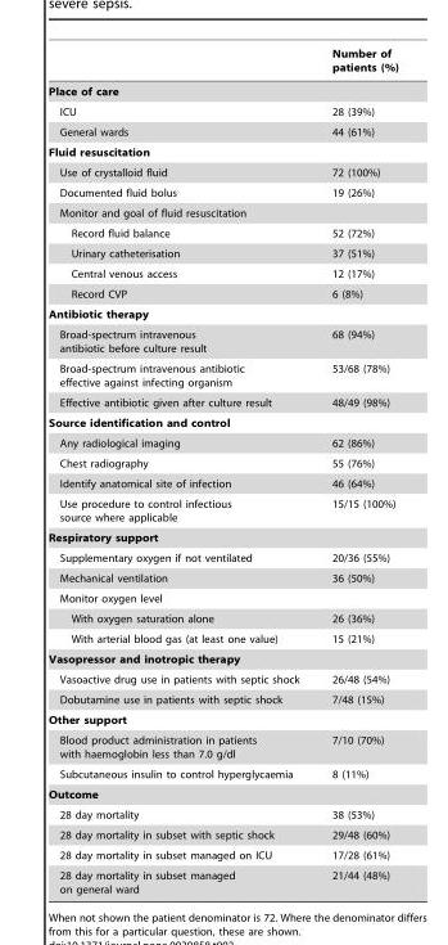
<table><thead><tr><td></td><td>Number of patients (%)</td></tr></thead><tbody><tr><td colspan="2">Place of care</td></tr><tr><td>ICU</td><td>28 (39%)</td></tr><tr><td>General wards</td><td>44 (61%)</td></tr><tr><td colspan="2">Fluid resuscitation</td></tr><tr><td>Use of crystalloid fluid</td><td>72 (100%)</td></tr><tr><td>Documented fluid bolus</td><td>19 (26%)</td></tr><tr><td colspan="2">Monitor and goal of fluid resuscitation</td></tr><tr><td>Record fluid balance</td><td>52 (72%)</td></tr><tr><td>Urinary catheterisation</td><td>37 (51%)</td></tr><tr><td>Central venous access</td><td>12 (17%)</td></tr><tr><td>Record CVP</td><td>6 (8%)</td></tr><tr><td colspan="2">Antibiotic therapy</td></tr><tr><td>Broad-spectrum intravenous antibiotic before culture result</td><td>68 (94%)</td></tr><tr><td>Broad-spectrum intravenous antibiotic effective against infecting organism</td><td>53/68 (78%)</td></tr><tr><td>Effective antibiotic given after culture result</td><td>48/49 (98%)</td></tr><tr><td colspan="2">Source identification and control</td></tr><tr><td>Any radiological imaging</td><td>62 (86%)</td></tr><tr><td>Chest radiography</td><td>55 (76%)</td></tr><tr><td>Identify anatomical site of infection</td><td>46 (64%)</td></tr><tr><td>Use procedure to control infectious source where applicable</td><td>15/15 (100%)</td></tr><tr><td colspan="2">Respiratory support</td></tr><tr><td>Supplementary oxygen if not ventilated</td><td>20/36 (55%)</td></tr><tr><td>Mechanical ventilation</td><td>36 (50%)</td></tr><tr><td colspan="2">Monitor oxygen level</td></tr><tr><td>With oxygen saturation alone</td><td>26 (36%)</td></tr><tr><td>With arterial blood gas (at least one value)</td><td>15 (21%)</td></tr><tr><td colspan="2">Vasopressor and inotropic therapy</td></tr><tr><td>Vasoactive drug use in patients with septic shock</td><td>26/48 (54%)</td></tr><tr><td>Dobutamine use in patients with septic shock</td><td>7/48 (15%)</td></tr><tr><td colspan="2">Other support</td></tr><tr><td>Blood product administration in patients with haemoglobin less than 7.0 g/dl</td><td>7/10 (70%)</td></tr><tr><td>Subcutaneous insulin to control hyperglycaemia</td><td>8 (11%)</td></tr><tr><td colspan="2">Outcome</td></tr><tr><td>28 day mortality</td><td>38 (53%)</td></tr><tr><td>28 day mortality in subset with septic shock</td><td>29/48 (60%)</td></tr><tr><td>28 day mortality in subset managed on ICU</td><td>17/28 (61%)</td></tr><tr><td>28 day mortality in subset managed on general ward</td><td>21/44 (48%)</td></tr></tbody></table>